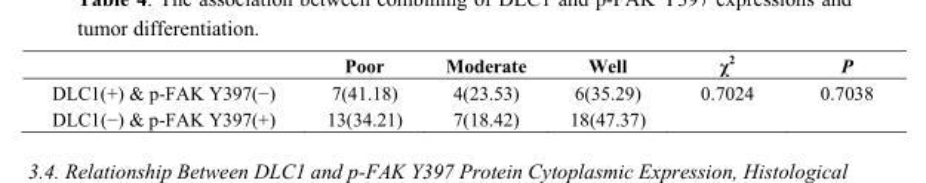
<table><thead><tr><td></td><td>Poor</td><td>Moderate</td><td>Well</td><td>χ<sup>2</sup></td><td>P</td></tr></thead><tbody><tr><td>DLC1(+) &amp; p-FAK Y397(−)</td><td>7(41.18)</td><td>4(23.53)</td><td>6(35.29)</td><td>0.7024</td><td>0.7038</td></tr><tr><td>DLC1(−) &amp; p-FAK Y397(+)</td><td>13(34.21)</td><td>7(18.42)</td><td>18(47.37)</td><td></td><td></td></tr></tbody></table>